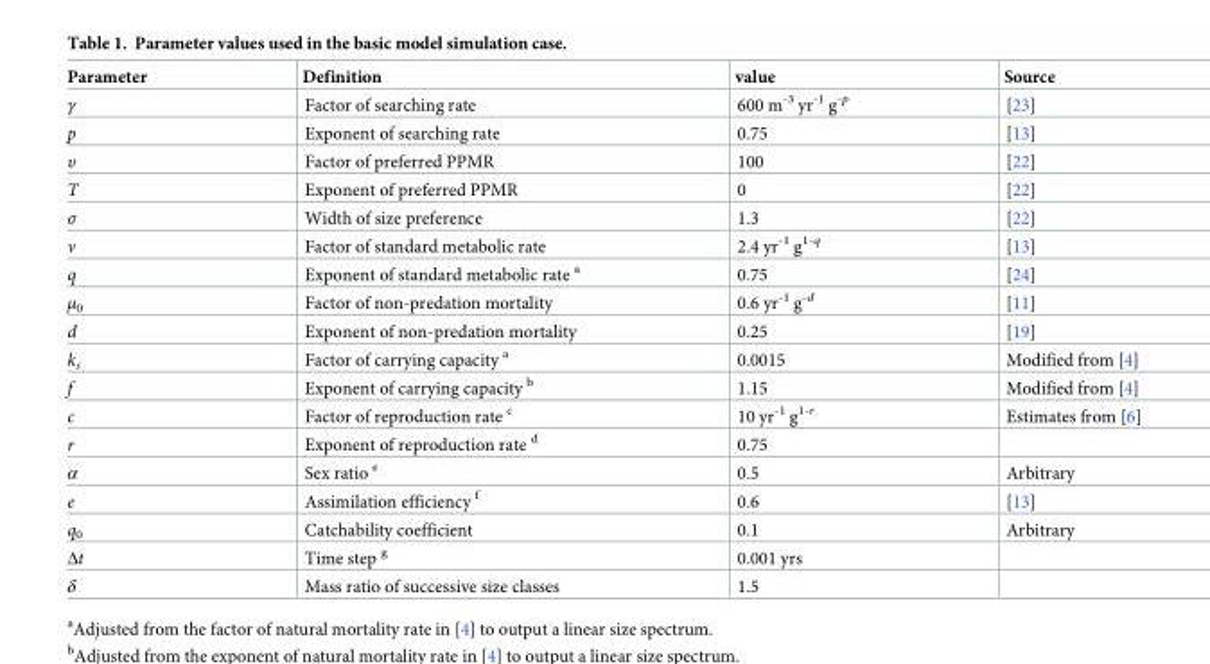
<table><thead><tr><td>Parameter</td><td>Definition</td><td>value</td><td>Source</td></tr></thead><tbody><tr><td>γ</td><td>Factor of searching rate</td><td>600 m<sup>-3</sup> yr<sup>-1</sup> g<sup>-p</sup></td><td>[23]</td></tr><tr><td>p</td><td>Exponent of searching rate</td><td>0.75</td><td>[13]</td></tr><tr><td>υ</td><td>Factor of preferred PPMR</td><td>100</td><td>[22]</td></tr><tr><td>Τ</td><td>Exponent of preferred PPMR</td><td>0</td><td>[22]</td></tr><tr><td>σ</td><td>Width of size preference</td><td>1.3</td><td>[22]</td></tr><tr><td>v</td><td>Factor of standard metabolic rate</td><td>2.4 yr<sup>-1</sup> g<sup>1-q</sup></td><td>[13]</td></tr><tr><td>q</td><td>Exponent of standard metabolic rate <sup>a</sup></td><td>0.75</td><td>[24]</td></tr><tr><td>μ<sub>0</sub></td><td>Factor of non-predation mortality</td><td>0.6 yr<sup>-1</sup> g<sup>-d</sup></td><td>[11]</td></tr><tr><td>d</td><td>Exponent of non-predation mortality</td><td>0.25</td><td>[19]</td></tr><tr><td>k<sub>s</sub></td><td>Factor of carrying capacity <sup>a</sup></td><td>0.0015</td><td>Modified from [4]</td></tr><tr><td>f</td><td>Exponent of carrying capacity <sup>b</sup></td><td>1.15</td><td>Modified from [4]</td></tr><tr><td>c</td><td>Factor of reproduction rate <sup>c</sup></td><td>10 yr<sup>-1</sup> g<sup>1-r</sup></td><td>Estimates from [6]</td></tr><tr><td>r</td><td>Exponent of reproduction rate <sup>d</sup></td><td>0.75</td><td></td></tr><tr><td>α</td><td>Sex ratio <sup>e</sup></td><td>0.5</td><td>Arbitrary</td></tr><tr><td>e</td><td>Assimilation efficiency <sup>f</sup></td><td>0.6</td><td>[13]</td></tr><tr><td>q<sub>0</sub></td><td>Catchability coefficient</td><td>0.1</td><td>Arbitrary</td></tr><tr><td>Δt</td><td>Time step <sup>g</sup></td><td>0.001 yrs</td><td></td></tr><tr><td>δ</td><td>Mass ratio of successive size classes</td><td>1.5</td><td></td></tr></tbody></table>